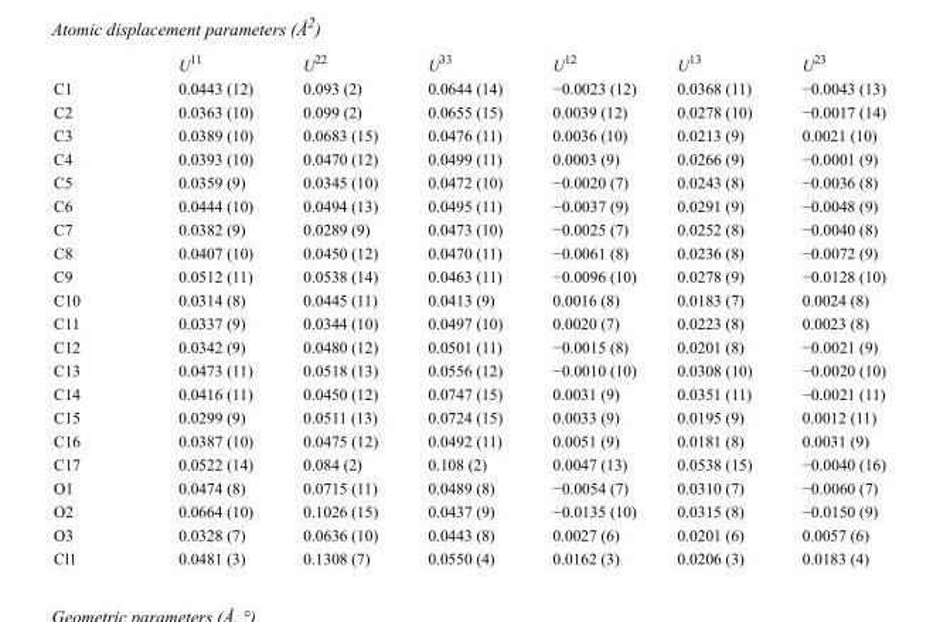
<table><thead><tr><td></td><td>U<sup>11</sup></td><td>U<sup>22</sup></td><td>U<sup>33</sup></td><td>U<sup>12</sup></td><td>U<sup>13</sup></td><td>U<sup>23</sup></td></tr></thead><tbody><tr><td>C1</td><td>0.0443 (12)</td><td>0.093 (2)</td><td>0.0644 (14)</td><td>−0.0023 (12)</td><td>0.0368 (11)</td><td>−0.0043 (13)</td></tr><tr><td>C2</td><td>0.0363 (10)</td><td>0.099 (2)</td><td>0.0655 (15)</td><td>0.0039 (12)</td><td>0.0278 (10)</td><td>−0.0017 (14)</td></tr><tr><td>C3</td><td>0.0389 (10)</td><td>0.0683 (15)</td><td>0.0476 (11)</td><td>0.0036 (10)</td><td>0.0213 (9)</td><td>0.0021 (10)</td></tr><tr><td>C4</td><td>0.0393 (10)</td><td>0.0470 (12)</td><td>0.0499 (11)</td><td>0.0003 (9)</td><td>0.0266 (9)</td><td>−0.0001 (9)</td></tr><tr><td>C5</td><td>0.0359 (9)</td><td>0.0345 (10)</td><td>0.0472 (10)</td><td>−0.0020 (7)</td><td>0.0243 (8)</td><td>−0.0036 (8)</td></tr><tr><td>C6</td><td>0.0444 (10)</td><td>0.0494 (13)</td><td>0.0495 (11)</td><td>−0.0037 (9)</td><td>0.0291 (9)</td><td>−0.0048 (9)</td></tr><tr><td>C7</td><td>0.0382 (9)</td><td>0.0289 (9)</td><td>0.0473 (10)</td><td>−0.0025 (7)</td><td>0.0252 (8)</td><td>−0.0040 (8)</td></tr><tr><td>C8</td><td>0.0407 (10)</td><td>0.0450 (12)</td><td>0.0470 (11)</td><td>−0.0061 (8)</td><td>0.0236 (8)</td><td>−0.0072 (9)</td></tr><tr><td>C9</td><td>0.0512 (11)</td><td>0.0538 (14)</td><td>0.0463 (11)</td><td>−0.0096 (10)</td><td>0.0278 (9)</td><td>−0.0128 (10)</td></tr><tr><td>C10</td><td>0.0314 (8)</td><td>0.0445 (11)</td><td>0.0413 (9)</td><td>0.0016 (8)</td><td>0.0183 (7)</td><td>0.0024 (8)</td></tr><tr><td>C11</td><td>0.0337 (9)</td><td>0.0344 (10)</td><td>0.0497 (10)</td><td>0.0020 (7)</td><td>0.0223 (8)</td><td>0.0023 (8)</td></tr><tr><td>C12</td><td>0.0342 (9)</td><td>0.0480 (12)</td><td>0.0501 (11)</td><td>−0.0015 (8)</td><td>0.0201 (8)</td><td>−0.0021 (9)</td></tr><tr><td>C13</td><td>0.0473 (11)</td><td>0.0518 (13)</td><td>0.0556 (12)</td><td>−0.0010 (10)</td><td>0.0308 (10)</td><td>−0.0020 (10)</td></tr><tr><td>C14</td><td>0.0416 (11)</td><td>0.0450 (12)</td><td>0.0747 (15)</td><td>0.0031 (9)</td><td>0.0351 (11)</td><td>−0.0021 (11)</td></tr><tr><td>C15</td><td>0.0299 (9)</td><td>0.0511 (13)</td><td>0.0724 (15)</td><td>0.0033 (9)</td><td>0.0195 (9)</td><td>0.0012 (11)</td></tr><tr><td>C16</td><td>0.0387 (10)</td><td>0.0475 (12)</td><td>0.0492 (11)</td><td>0.0051 (9)</td><td>0.0181 (8)</td><td>0.0031 (9)</td></tr><tr><td>C17</td><td>0.0522 (14)</td><td>0.084 (2)</td><td>0.108 (2)</td><td>0.0047 (13)</td><td>0.0538 (15)</td><td>−0.0040 (16)</td></tr><tr><td>O1</td><td>0.0474 (8)</td><td>0.0715 (11)</td><td>0.0489 (8)</td><td>−0.0054 (7)</td><td>0.0310 (7)</td><td>−0.0060 (7)</td></tr><tr><td>O2</td><td>0.0664 (10)</td><td>0.1026 (15)</td><td>0.0437 (9)</td><td>−0.0135 (10)</td><td>0.0315 (8)</td><td>−0.0150 (9)</td></tr><tr><td>O3</td><td>0.0328 (7)</td><td>0.0636 (10)</td><td>0.0443 (8)</td><td>0.0027 (6)</td><td>0.0201 (6)</td><td>0.0057 (6)</td></tr><tr><td>Cl1</td><td>0.0481 (3)</td><td>0.1308 (7)</td><td>0.0550 (4)</td><td>0.0162 (3)</td><td>0.0206 (3)</td><td>0.0183 (4)</td></tr></tbody></table>